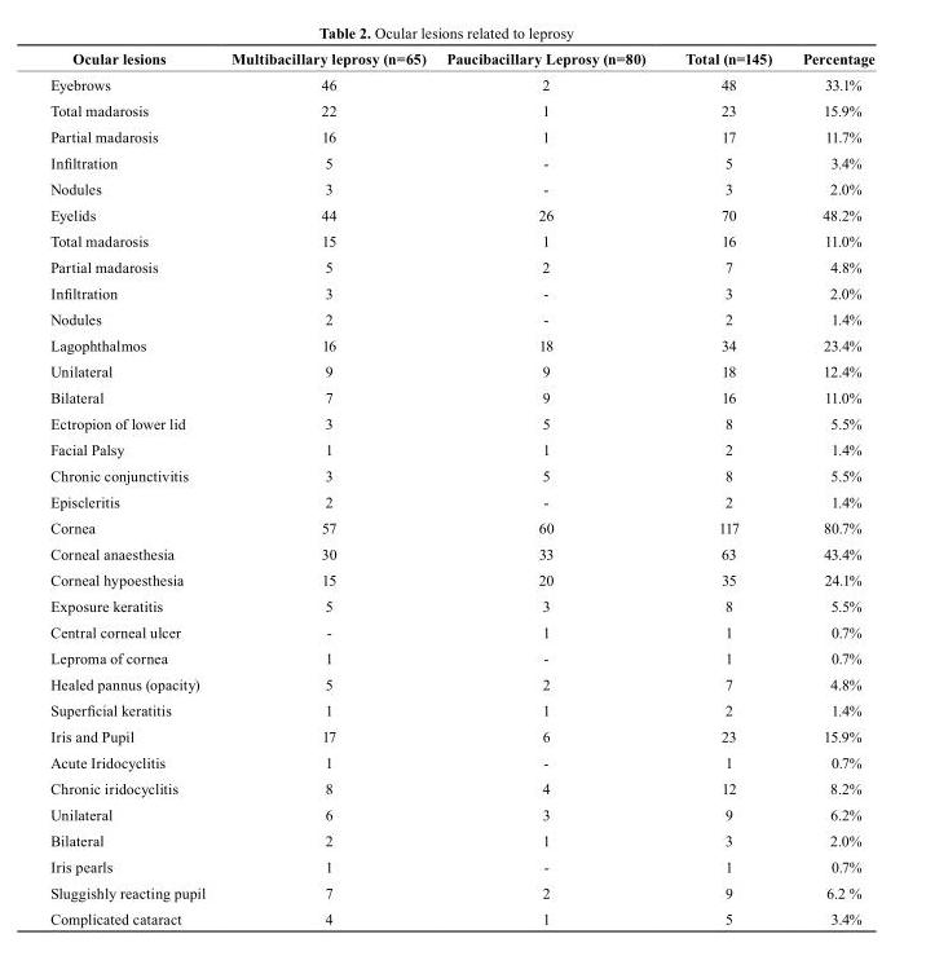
<table><thead><tr><td>Ocular lesions</td><td>Multibacillary leprosy (n=65)</td><td>Paucibacillary Leprosy (n=80)</td><td>total (n=145)</td><td>Percentage</td></tr></thead><tbody><tr><td>Eyebrows</td><td>46</td><td>2</td><td>48</td><td>33.1%</td></tr><tr><td>Total madarosis</td><td>22</td><td>1</td><td>23</td><td>15.9%</td></tr><tr><td>Partial madarosis</td><td>16</td><td>1</td><td>17</td><td>11.7%</td></tr><tr><td>Infiltration</td><td>5</td><td>-</td><td>5</td><td>3.4%</td></tr><tr><td>Nodules</td><td>3</td><td>-</td><td>3</td><td>2.0%</td></tr><tr><td>Eyelids</td><td>44</td><td>26</td><td>70</td><td>48.2%</td></tr><tr><td>Total madarosis</td><td>15</td><td>1</td><td>16</td><td>11.0%</td></tr><tr><td>Partial madarosis</td><td>5</td><td>2</td><td>7</td><td>4.8%</td></tr><tr><td>Infiltration</td><td>3</td><td>-</td><td>3</td><td>2.0%</td></tr><tr><td>Nodules</td><td>2</td><td>-</td><td>2</td><td>1.4%</td></tr><tr><td>Lagophthalmos</td><td>16</td><td>18</td><td>34</td><td>23.4%</td></tr><tr><td>Unilateral</td><td>9</td><td>9</td><td>18</td><td>12.4%</td></tr><tr><td>Bilateral</td><td>7</td><td>9</td><td>16</td><td>11.0%</td></tr><tr><td>Ectropion of lower lid</td><td>3</td><td>5</td><td>8</td><td>5.5%</td></tr><tr><td>Facial Palsy</td><td>1</td><td>1</td><td>2</td><td>1.4%</td></tr><tr><td>Chronic conjunctivitis</td><td>3</td><td>5</td><td>8</td><td>5.5%</td></tr><tr><td>Episcleritis</td><td>2</td><td>-</td><td>2</td><td>1.4%</td></tr><tr><td>Cornea</td><td>57</td><td>60</td><td>117</td><td>80.7%</td></tr><tr><td>Corneal anaesthesia</td><td>30</td><td>33</td><td>63</td><td>43.4%</td></tr><tr><td>Corneal hypoesthesia</td><td>15</td><td>20</td><td>35</td><td>24.1%</td></tr><tr><td>Exposure keratitis</td><td>5</td><td>3</td><td>8</td><td>5.5%</td></tr><tr><td>Central corneal ulcer</td><td>-</td><td>1</td><td>1</td><td>0.7%</td></tr><tr><td>Leproma of cornea</td><td>1</td><td>-</td><td>1</td><td>0.7%</td></tr><tr><td>Healed pannus (opacity)</td><td>5</td><td>2</td><td>7</td><td>4.8%</td></tr><tr><td>Superficial keratitis</td><td>1</td><td>1</td><td>2</td><td>1.4%</td></tr><tr><td>Iris and Pupil</td><td>17</td><td>6</td><td>23</td><td>15.9%</td></tr><tr><td>Acute Iridocyclitis</td><td>1</td><td>-</td><td>1</td><td>0.7%</td></tr><tr><td>Chronic iridocyclitis</td><td>8</td><td>4</td><td>12</td><td>8.2%</td></tr><tr><td>Unilateral</td><td>6</td><td>3</td><td>9</td><td>6.2%</td></tr><tr><td>Bilateral</td><td>2</td><td>1</td><td>3</td><td>2.0%</td></tr><tr><td>Iris pearls</td><td>1</td><td>-</td><td>1</td><td>0.7%</td></tr><tr><td>Sluggishly reacting pupil</td><td>7</td><td>2</td><td>9</td><td>6.2 %</td></tr><tr><td>Complicated cataract</td><td>4</td><td>1</td><td>5</td><td>3.4%</td></tr></tbody></table>